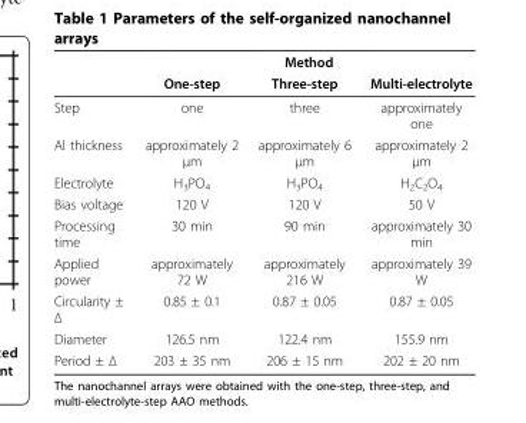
<table><thead><tr><td rowspan="2"></td><td colspan="3">Method</td></tr><tr><td>One-step</td><td>Three-step</td><td>Multi-electrolyte</td></tr></thead><tbody><tr><td>Step</td><td>one</td><td>three</td><td>approximately one</td></tr><tr><td>Al thickness</td><td>approximately 2 μm</td><td>approximately 6 μm</td><td>approximately 2 μm</td></tr><tr><td>Electrolyte</td><td>H<sub>3</sub>PO<sub>4</sub></td><td>H<sub>3</sub>PO<sub>4</sub></td><td>H<sub>2</sub>C<sub>2</sub>O<sub>4</sub></td></tr><tr><td>Bias voltage</td><td>120 V</td><td>120 V</td><td>50 V</td></tr><tr><td>Processing time</td><td>30 min</td><td>90 min</td><td>approximately 30 min</td></tr><tr><td>Applied power</td><td>approximately 72 W</td><td>approximately 216 W</td><td>approximately 39 W</td></tr><tr><td>Circularity ± Δ</td><td>0.85 ± 0.1</td><td>0.87 ± 0.05</td><td>0.87 ± 0.05</td></tr><tr><td>Diameter</td><td>126.5 nm</td><td>122.4 nm</td><td>155.9 nm</td></tr><tr><td>Period ± Δ</td><td>203 ± 35 nm</td><td>206 ± 15 nm</td><td>202 ± 20 nm</td></tr></tbody></table>